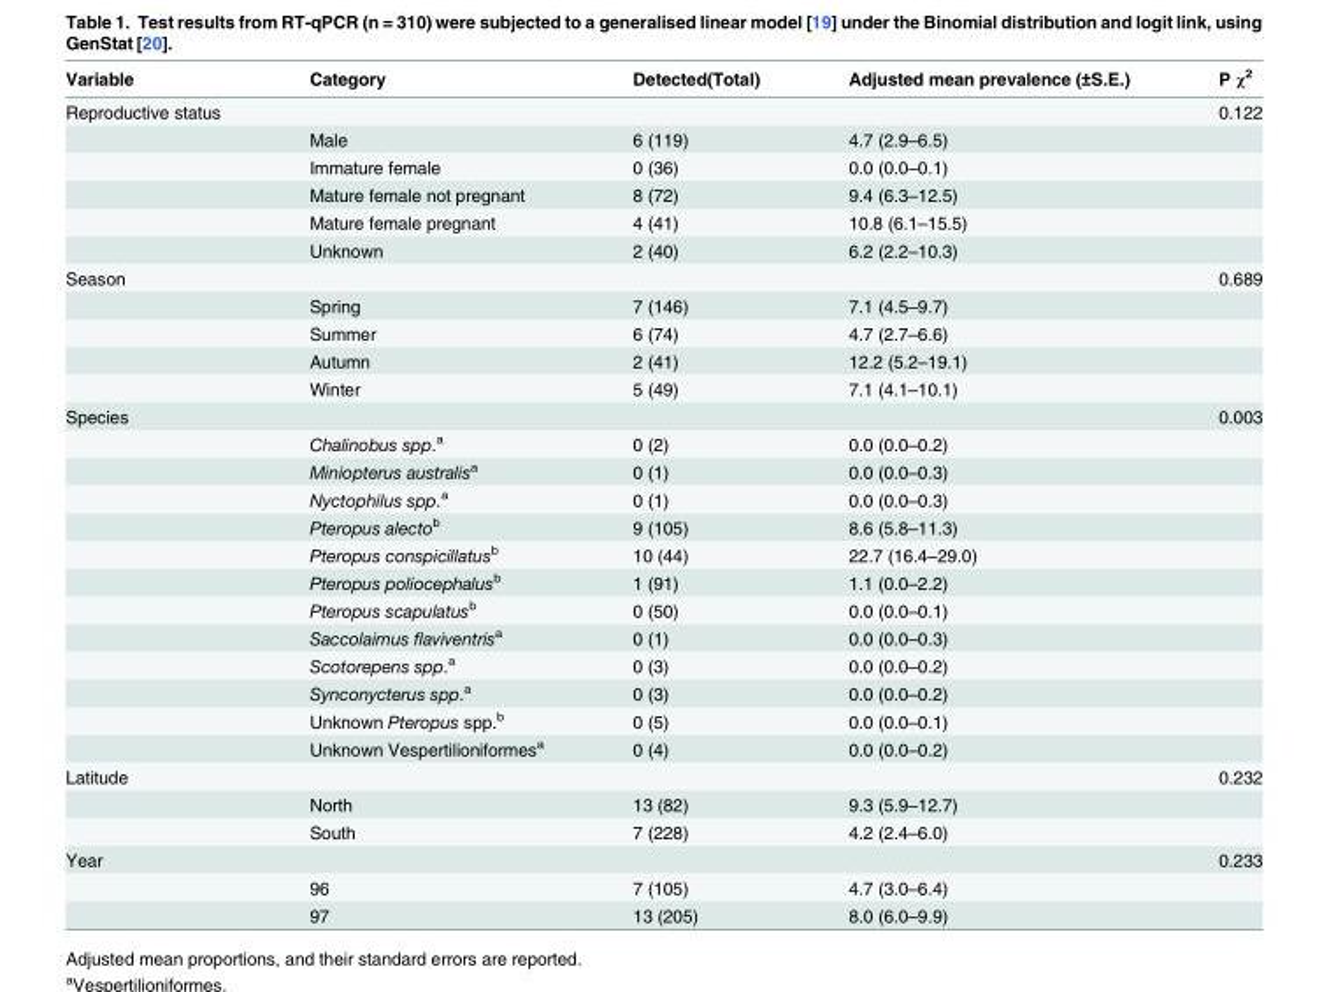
<table><thead><tr><td>Variable</td><td>Category</td><td>Detected(Total)</td><td>Adjusted mean prevalence (±S.E.)</td><td>P χ<sup>2</sup></td></tr></thead><tbody><tr><td rowspan="6">Reproductive status</td><td></td><td></td><td></td><td>0.122</td></tr><tr><td>Male</td><td>6 (119)</td><td>4.7 (2.9–6.5)</td><td></td></tr><tr><td>Immature female</td><td>0 (36)</td><td>0.0 (0.0–0.1)</td><td></td></tr><tr><td>Mature female not pregnant</td><td>8 (72)</td><td>9.4 (6.3–12.5)</td><td></td></tr><tr><td>Mature female pregnant</td><td>4 (41)</td><td>10.8 (6.1–15.5)</td><td></td></tr><tr><td>Unknown</td><td>2 (40)</td><td>6.2 (2.2–10.3)</td><td></td></tr><tr><td rowspan="5">Season</td><td></td><td></td><td></td><td>0.689</td></tr><tr><td>Spring</td><td>7 (146)</td><td>7.1 (4.5–9.7)</td><td></td></tr><tr><td>Summer</td><td>6 (74)</td><td>4.7 (2.7–6.6)</td><td></td></tr><tr><td>Autumn</td><td>2 (41)</td><td>12.2 (5.2–19.1)</td><td></td></tr><tr><td>Winter</td><td>5 (49)</td><td>7.1 (4.1–10.1)</td><td></td></tr><tr><td rowspan="13">Species</td><td></td><td></td><td></td><td>0.003</td></tr><tr><td>Chalinobus spp.<sup>a</sup></td><td>0 (2)</td><td>0.0 (0.0–0.2)</td><td></td></tr><tr><td>Miniopterus australis<sup>a</sup></td><td>0 (1)</td><td>0.0 (0.0–0.3)</td><td></td></tr><tr><td>Nyctophilus spp.<sup>a</sup></td><td>0 (1)</td><td>0.0 (0.0–0.3)</td><td></td></tr><tr><td>Pteropus alecto<sup>b</sup></td><td>9 (105)</td><td>8.6 (5.8–11.3)</td><td></td></tr><tr><td>Pteropus conspicillatus<sup>b</sup></td><td>10 (44)</td><td>22.7 (16.4–29.0)</td><td></td></tr><tr><td>Pteropus poliocephalus<sup>b</sup></td><td>1 (91)</td><td>1.1 (0.0–2.2)</td><td></td></tr><tr><td>Pteropus scapulatus<sup>b</sup></td><td>0 (50)</td><td>0.0 (0.0–0.1)</td><td></td></tr><tr><td>Saccolaimus flaviventris<sup>a</sup></td><td>0 (1)</td><td>0.0 (0.0–0.3)</td><td></td></tr><tr><td>Scotorepens spp.<sup>a</sup></td><td>0 (3)</td><td>0.0 (0.0–0.2)</td><td></td></tr><tr><td>Synconycterus spp.<sup>a</sup></td><td>0 (3)</td><td>0.0 (0.0–0.2)</td><td></td></tr><tr><td>Unknown Pteropus spp.<sup>b</sup></td><td>0 (5)</td><td>0.0 (0.0–0.1)</td><td></td></tr><tr><td>Unknown Vespertilioniformes<sup>a</sup></td><td>0 (4)</td><td>0.0 (0.0–0.2)</td><td></td></tr><tr><td rowspan="3">Latitude</td><td></td><td></td><td></td><td>0.232</td></tr><tr><td>North</td><td>13 (82)</td><td>9.3 (5.9–12.7)</td><td></td></tr><tr><td>South</td><td>7 (228)</td><td>4.2 (2.4–6.0)</td><td></td></tr><tr><td rowspan="3">Year</td><td></td><td></td><td></td><td>0.233</td></tr><tr><td>96</td><td>7 (105)</td><td>4.7 (3.0–6.4)</td><td></td></tr><tr><td>97</td><td>13 (205)</td><td>8.0 (6.0–9.9)</td><td></td></tr></tbody></table>